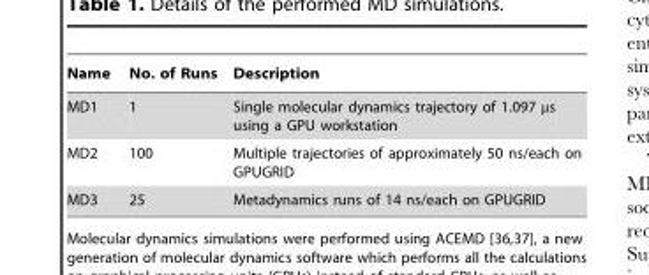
<table><thead><tr><td>Name</td><td>No. of Runs</td><td>Description</td></tr></thead><tbody><tr><td>MD1</td><td>1</td><td>Single molecular dynamics trajectory of 1.097 µs using a GPU workstation</td></tr><tr><td>MD2</td><td>100</td><td>Multiple trajectories of approximately 50 ns/each on GPUGRID</td></tr><tr><td>MD3</td><td>25</td><td>Metadynamics runs of 14 ns/each on GPUGRID</td></tr></tbody></table>